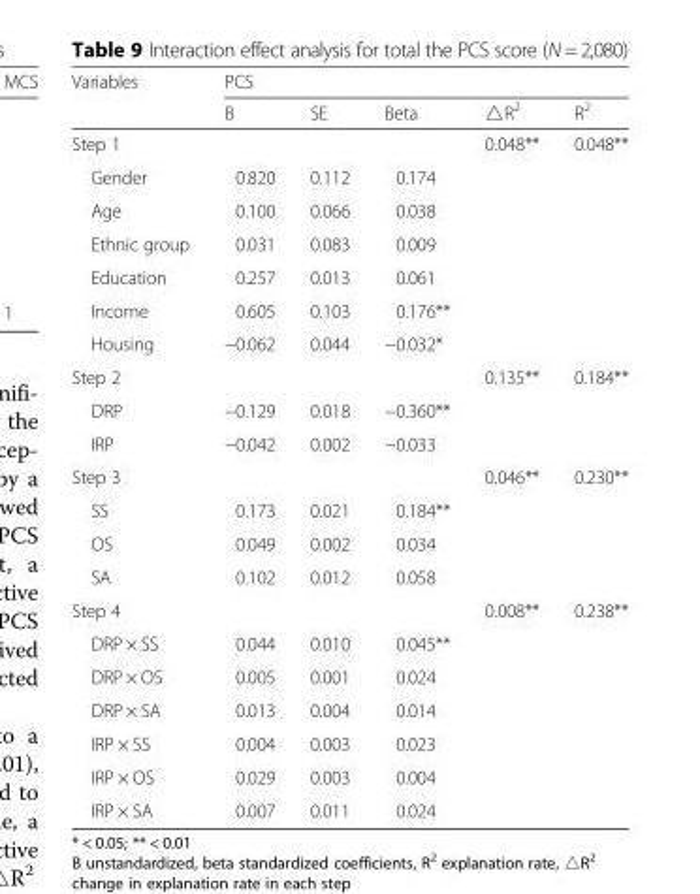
<table><thead><tr><td rowspan="2">Variables</td><td colspan="5">PCS</td></tr><tr><td>B</td><td>SE</td><td>Beta</td><td>△R<sup>2</sup></td><td>R<sup>2</sup></td></tr></thead><tbody><tr><td>Step 1</td><td></td><td></td><td></td><td>0.048**</td><td>0.048**</td></tr><tr><td>Gender</td><td>0.820</td><td>0.112</td><td>0.174</td><td></td><td></td></tr><tr><td>Age</td><td>0.100</td><td>0.066</td><td>0.038</td><td></td><td></td></tr><tr><td>Ethnic group</td><td>0.031</td><td>0.083</td><td>0.009</td><td></td><td></td></tr><tr><td>Education</td><td>0.257</td><td>0.013</td><td>0.061</td><td></td><td></td></tr><tr><td>Income</td><td>0.605</td><td>0.103</td><td>0.176**</td><td></td><td></td></tr><tr><td>Housing</td><td>−0.062</td><td>0.044</td><td>−0.032*</td><td></td><td></td></tr><tr><td>Step 2</td><td></td><td></td><td></td><td>0.135**</td><td>0.184**</td></tr><tr><td>DRP</td><td>−0.129</td><td>0.018</td><td>−0.360**</td><td></td><td></td></tr><tr><td>IRP</td><td>−0.042</td><td>0.002</td><td>−0.033</td><td></td><td></td></tr><tr><td>Step 3</td><td></td><td></td><td></td><td>0.046**</td><td>0.230**</td></tr><tr><td>SS</td><td>0.173</td><td>0.021</td><td>0.184**</td><td></td><td></td></tr><tr><td>OS</td><td>0.049</td><td>0.002</td><td>0.034</td><td></td><td></td></tr><tr><td>SA</td><td>0.102</td><td>0.012</td><td>0.058</td><td></td><td></td></tr><tr><td>Step 4</td><td></td><td></td><td></td><td>0.008**</td><td>0.238**</td></tr><tr><td>DRP × SS</td><td>0.044</td><td>0.010</td><td>0.045**</td><td></td><td></td></tr><tr><td>DRP × OS</td><td>0.005</td><td>0.001</td><td>0.024</td><td></td><td></td></tr><tr><td>DRP × SA</td><td>0.013</td><td>0.004</td><td>0.014</td><td></td><td></td></tr><tr><td>IRP × SS</td><td>0.004</td><td>0.003</td><td>0.023</td><td></td><td></td></tr><tr><td>IRP × OS</td><td>0.029</td><td>0.003</td><td>0.004</td><td></td><td></td></tr><tr><td>IRP × SA</td><td>0.007</td><td>0.011</td><td>0.024</td><td></td><td></td></tr></tbody></table>